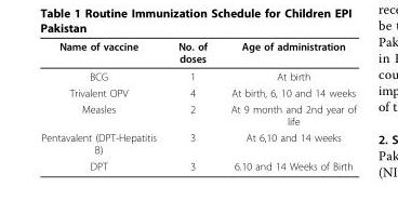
<table><thead><tr><td>Name of vaccine</td><td>No. of doses</td><td>Age of administration</td></tr></thead><tbody><tr><td>BCG</td><td>1</td><td>At birth</td></tr><tr><td>Trivalent OPV</td><td>4</td><td>At birth, 6, 10 and 14 weeks</td></tr><tr><td>Measles</td><td>2</td><td>At 9 month and 2nd year of life</td></tr><tr><td>Pentavalent (DPT-Hepatitis B)</td><td>3</td><td>At 6,10 and 14 weeks</td></tr><tr><td>DPT</td><td>3</td><td>6.10 and 14 Weeks of Birth</td></tr></tbody></table>